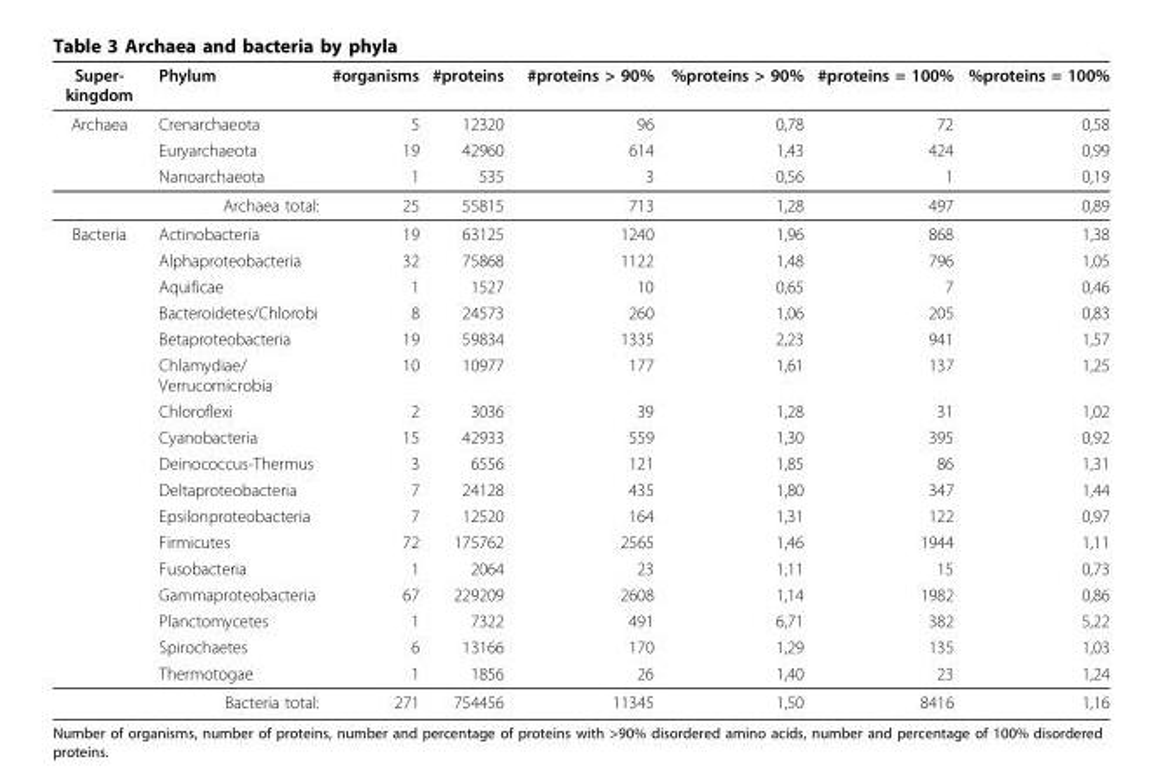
<table><thead><tr><td>Super- kingdom</td><td>Phylum</td><td>#organisms</td><td>#proteins</td><td>#proteins &gt; 90%</td><td>%proteins &gt; 90%</td><td>#proteins = 100%</td><td>%proteins = 100%</td></tr></thead><tbody><tr><td rowspan="4">Archaea</td><td>Crenarchaeota</td><td>5</td><td>12320</td><td>96</td><td>0,78</td><td>72</td><td>0,58</td></tr><tr><td>Euryarchaeota</td><td>19</td><td>42960</td><td>614</td><td>1,43</td><td>424</td><td>0,99</td></tr><tr><td>Nanoarchaeota</td><td>1</td><td>535</td><td>3</td><td>0,56</td><td>1</td><td>0,19</td></tr><tr><td>Archaea total:</td><td>25</td><td>55815</td><td>713</td><td>1,28</td><td>497</td><td>0,89</td></tr><tr><td rowspan="18">Bacteria</td><td>Actinobacteria</td><td>19</td><td>63125</td><td>1240</td><td>1,96</td><td>868</td><td>1,38</td></tr><tr><td>Alphaproteobacteria</td><td>32</td><td>75868</td><td>1122</td><td>1,48</td><td>796</td><td>1,05</td></tr><tr><td>Aquificae</td><td>1</td><td>1527</td><td>10</td><td>0,65</td><td>7</td><td>0,46</td></tr><tr><td>Bacteroidetes/Chlorobi</td><td>8</td><td>24573</td><td>260</td><td>1,06</td><td>205</td><td>0,83</td></tr><tr><td>Betaproteobacteria</td><td>19</td><td>59834</td><td>1335</td><td>2,23</td><td>941</td><td>1,57</td></tr><tr><td>Chlamydiae/ Verrucomicrobia</td><td>10</td><td>10977</td><td>177</td><td>1,61</td><td>137</td><td>1,25</td></tr><tr><td>Chloroflexi</td><td>2</td><td>3036</td><td>39</td><td>1,28</td><td>31</td><td>1,02</td></tr><tr><td>Cyanobacteria</td><td>15</td><td>42933</td><td>559</td><td>1,30</td><td>395</td><td>0,92</td></tr><tr><td>Deinococcus-Thermus</td><td>3</td><td>6556</td><td>121</td><td>1,85</td><td>86</td><td>1,31</td></tr><tr><td>Deltaproteobacteria</td><td>7</td><td>24128</td><td>435</td><td>1,80</td><td>347</td><td>1,44</td></tr><tr><td>Epsilonproteobacteria</td><td>7</td><td>12520</td><td>164</td><td>1,31</td><td>122</td><td>0,97</td></tr><tr><td>Firmicutes</td><td>72</td><td>175762</td><td>2565</td><td>1,46</td><td>1944</td><td>1,11</td></tr><tr><td>Fusobacteria</td><td>1</td><td>2064</td><td>23</td><td>1,11</td><td>15</td><td>0,73</td></tr><tr><td>Gammaproteobacteria</td><td>67</td><td>229209</td><td>2608</td><td>1,14</td><td>1982</td><td>0,86</td></tr><tr><td>Planctomycetes</td><td>1</td><td>7322</td><td>491</td><td>6,71</td><td>382</td><td>5,22</td></tr><tr><td>Spirochaetes</td><td>6</td><td>13166</td><td>170</td><td>1,29</td><td>135</td><td>1,03</td></tr><tr><td>Thermotogae</td><td>1</td><td>1856</td><td>26</td><td>1,40</td><td>23</td><td>1,24</td></tr><tr><td>Bacteria total:</td><td>271</td><td>754456</td><td>11345</td><td>1,50</td><td>8416</td><td>1,16</td></tr></tbody></table>